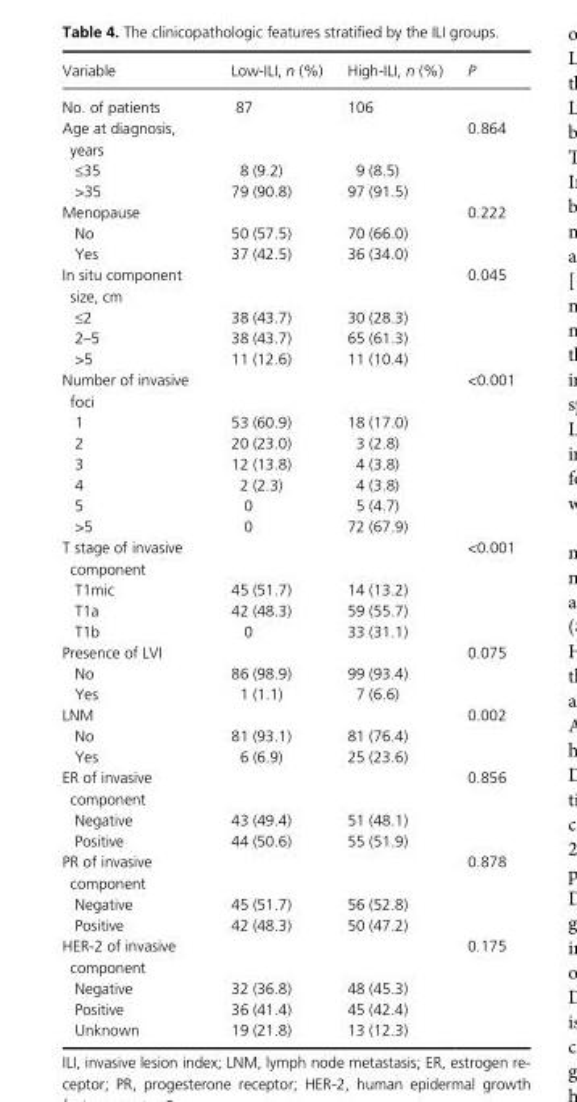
<table><thead><tr><td>Variable</td><td>Low- ILI, n (%)</td><td>High- ILI, n (%)</td><td>P</td></tr></thead><tbody><tr><td>No. of patients</td><td>87</td><td>106</td><td></td></tr><tr><td>Age at diagnosis, years</td><td></td><td></td><td>0.864</td></tr><tr><td>≤35</td><td>8 (9.2)</td><td>9 (8.5)</td><td></td></tr><tr><td>&gt;35</td><td>79 (90.8)</td><td>97 (91.5)</td><td></td></tr><tr><td>Menopause</td><td></td><td></td><td>0.222</td></tr><tr><td>No</td><td>50 (57.5)</td><td>70 (66.0)</td><td></td></tr><tr><td>Yes</td><td>37 (42.5)</td><td>36 (34.0)</td><td></td></tr><tr><td>In situ component size, cm</td><td></td><td></td><td>0.045</td></tr><tr><td>≤2</td><td>38 (43.7)</td><td>30 (28.3)</td><td></td></tr><tr><td>2–5</td><td>38 (43.7)</td><td>65 (61.3)</td><td></td></tr><tr><td>&gt;5</td><td>11 (12.6)</td><td>11 (10.4)</td><td></td></tr><tr><td>Number of invasive foci</td><td></td><td></td><td>&lt;0.001</td></tr><tr><td>1</td><td>53 (60.9)</td><td>18 (17.0)</td><td></td></tr><tr><td>2</td><td>20 (23.0)</td><td>3 (2.8)</td><td></td></tr><tr><td>3</td><td>12 (13.8)</td><td>4 (3.8)</td><td></td></tr><tr><td>4</td><td>2 (2.3)</td><td>4 (3.8)</td><td></td></tr><tr><td>5</td><td>0</td><td>5 (4.7)</td><td></td></tr><tr><td>&gt;5</td><td>0</td><td>72 (67.9)</td><td></td></tr><tr><td>T stage of invasive component</td><td></td><td></td><td>&lt;0.001</td></tr><tr><td>T1mic</td><td>45 (51.7)</td><td>14 (13.2)</td><td></td></tr><tr><td>T1a</td><td>42 (48.3)</td><td>59 (55.7)</td><td></td></tr><tr><td>T1b</td><td>0</td><td>33 (31.1)</td><td></td></tr><tr><td>Presence of LVI</td><td></td><td></td><td>0.075</td></tr><tr><td>No</td><td>86 (98.9)</td><td>99 (93.4)</td><td></td></tr><tr><td>Yes</td><td>1 (1.1)</td><td>7 (6.6)</td><td></td></tr><tr><td>LNM</td><td></td><td></td><td>0.002</td></tr><tr><td>No</td><td>81 (93.1)</td><td>81 (76.4)</td><td></td></tr><tr><td>Yes</td><td>6 (6.9)</td><td>25 (23.6)</td><td></td></tr><tr><td>ER of invasive component</td><td></td><td></td><td>0.856</td></tr><tr><td>Negative</td><td>43 (49.4)</td><td>51 (48.1)</td><td></td></tr><tr><td>Positive</td><td>44 (50.6)</td><td>55 (51.9)</td><td></td></tr><tr><td>PR of invasive component</td><td></td><td></td><td>0.878</td></tr><tr><td>Negative</td><td>45 (51.7)</td><td>56 (52.8)</td><td></td></tr><tr><td>Positive</td><td>42 (48.3)</td><td>50 (47.2)</td><td></td></tr><tr><td>HER- 2 of invasive component</td><td></td><td></td><td>0.175</td></tr><tr><td>Negative</td><td>32 (36.8)</td><td>48 (45.3)</td><td></td></tr><tr><td>Positive</td><td>36 (41.4)</td><td>45 (42.4)</td><td></td></tr><tr><td>Unknown</td><td>19 (21.8)</td><td>13 (12.3)</td><td></td></tr></tbody></table>